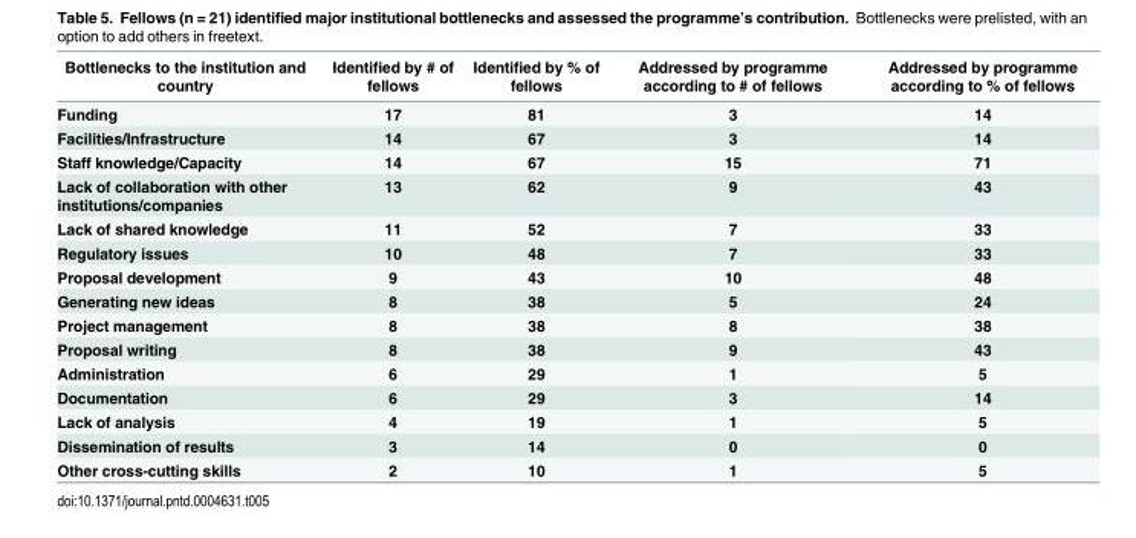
<table><thead><tr><td>Bottlenecks to the institution and country</td><td>Identified by # of fellows</td><td>Identified by % of fellows</td><td>Addressed by programme according to # of fellows</td><td>Addressed by programme according to % of fellows</td></tr></thead><tbody><tr><td>Funding</td><td>17</td><td>81</td><td>3</td><td>14</td></tr><tr><td>Facilities/Infrastructure</td><td>14</td><td>67</td><td>3</td><td>14</td></tr><tr><td>Staff knowledge/Capacity</td><td>14</td><td>67</td><td>15</td><td>71</td></tr><tr><td>Lack of collaboration with other institutions/companies</td><td>13</td><td>62</td><td>9</td><td>43</td></tr><tr><td>Lack of shared knowledge</td><td>11</td><td>52</td><td>7</td><td>33</td></tr><tr><td>Regulatory issues</td><td>10</td><td>48</td><td>7</td><td>33</td></tr><tr><td>Proposal development</td><td>9</td><td>43</td><td>10</td><td>48</td></tr><tr><td>Generating new ideas</td><td>8</td><td>38</td><td>5</td><td>24</td></tr><tr><td>Project management</td><td>8</td><td>38</td><td>8</td><td>38</td></tr><tr><td>Proposal writing</td><td>8</td><td>38</td><td>9</td><td>43</td></tr><tr><td>Administration</td><td>6</td><td>29</td><td>1</td><td>5</td></tr><tr><td>Documentation</td><td>6</td><td>29</td><td>3</td><td>14</td></tr><tr><td>Lack of analysis</td><td>4</td><td>19</td><td>1</td><td>5</td></tr><tr><td>Dissemination of results</td><td>3</td><td>14</td><td>0</td><td>0</td></tr><tr><td>Other cross-cutting skills</td><td>2</td><td>10</td><td>1</td><td>5</td></tr></tbody></table>